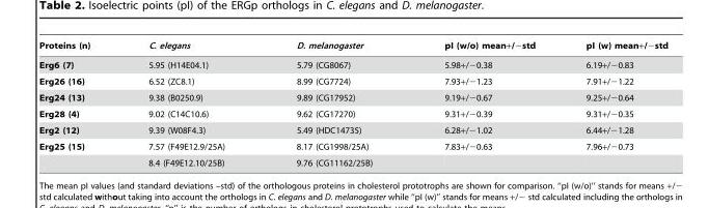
<table><thead><tr><td>Proteins (n)</td><td>C. elegans</td><td>D. melanogaster</td><td>pI (w/o) mean+/−std</td><td>pI (w) mean+/−std</td></tr></thead><tbody><tr><td>Erg6 (7)</td><td>5.95 (H14E04.1)</td><td>5.79 (CG8067)</td><td>5.98+/−0.38</td><td>6.19+/−0.83</td></tr><tr><td>Erg26 (16)</td><td>6.52 (ZC8.1)</td><td>8.99 (CG7724)</td><td>7.93+/−1.23</td><td>7.91+/−1.22</td></tr><tr><td>Erg24 (13)</td><td>9.38 (B0250.9)</td><td>9.89 (CG17952)</td><td>9.19+/−0.67</td><td>9.25+/−0.64</td></tr><tr><td>Erg28 (4)</td><td>9.02 (C14C10.6)</td><td>9.62 (CG17270)</td><td>9.31+/−0.39</td><td>9.31+/−0.35</td></tr><tr><td>Erg2 (12)</td><td>9.39 (W08F4.3)</td><td>5.49 (HDC14735)</td><td>6.28+/−1.02</td><td>6.44+/−1.28</td></tr><tr><td rowspan="2">Erg25 (15)</td><td>7.57 (F49E12.9/25A)</td><td>8.17 (CG1998/25A)</td><td>7.83+/−0.63</td><td>7.96+/−0.73</td></tr><tr><td>8.4 (F49E12.10/25B)</td><td>9.76 (CG11162/25B)</td><td></td><td></td></tr></tbody></table>